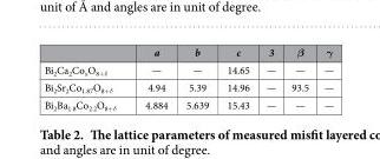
<table><thead><tr><td></td><td>a</td><td>b</td><td>c</td><td>3</td><td>β</td><td>γ</td></tr></thead><tbody><tr><td>Bi<sub>2</sub>Ca<sub>2</sub>Co<sub>x</sub>O<sub>8+δ</sub></td><td>—</td><td>—</td><td>14.65</td><td>—</td><td>—</td><td>—</td></tr><tr><td>Bi<sub>2</sub>Sr<sub>2</sub>Co<sub>1.87</sub>O<sub>8+δ</sub></td><td>4.94</td><td>5.39</td><td>14.96</td><td>—</td><td>93.5</td><td>—</td></tr><tr><td>Bi<sub>2</sub>Ba<sub>1.8</sub>Co<sub>2.2</sub>O<sub>8+δ</sub></td><td>4.884</td><td>5.639</td><td>15.43</td><td>—</td><td>—</td><td>—</td></tr></tbody></table>